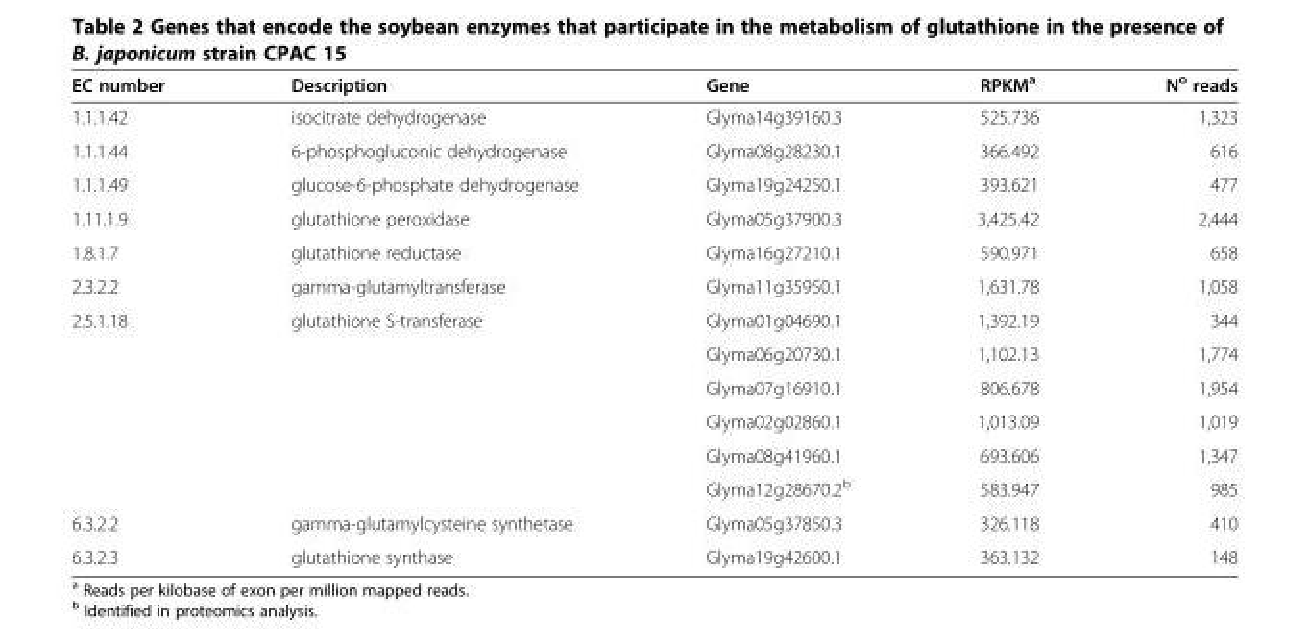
<table><thead><tr><td>EC number</td><td>Description</td><td>Gene</td><td>RPKM<sup>a</sup></td><td>N<sup>o</sup> reads</td></tr></thead><tbody><tr><td>1.1.1.42</td><td>isocitrate dehydrogenase</td><td>Glyma14g39160.3</td><td>525.736</td><td>1,323</td></tr><tr><td>1.1.1.44</td><td>6-phosphogluconic dehydrogenase</td><td>Glyma08g28230.1</td><td>366.492</td><td>616</td></tr><tr><td>1.1.1.49</td><td>glucose-6-phosphate dehydrogenase</td><td>Glyma19g24250.1</td><td>393.621</td><td>477</td></tr><tr><td>1.11.1.9</td><td>glutathione peroxidase</td><td>Glyma05g37900.3</td><td>3,425.42</td><td>2,444</td></tr><tr><td>1.8.1.7</td><td>glutathione reductase</td><td>Glyma16g27210.1</td><td>590.971</td><td>658</td></tr><tr><td>2.3.2.2</td><td>gamma-glutamyltransferase</td><td>Glyma11g35950.1</td><td>1,631.78</td><td>1,058</td></tr><tr><td rowspan="6">2.5.1.18</td><td>glutathione S-transferase</td><td>Glyma01g04690.1</td><td>1,392.19</td><td>344</td></tr><tr><td rowspan="5"></td><td>Glyma06g20730.1</td><td>1,102.13</td><td>1,774</td></tr><tr><td>Glyma07g16910.1</td><td>806.678</td><td>1,954</td></tr><tr><td>Glyma02g02860.1</td><td>1,013.09</td><td>1,019</td></tr><tr><td>Glyma08g41960.1</td><td>693.606</td><td>1,347</td></tr><tr><td>Glyma12g28670.2<sup>b</sup></td><td>583.947</td><td>985</td></tr><tr><td>6.3.2.2</td><td>gamma-glutamylcysteine synthetase</td><td>Glyma05g37850.3</td><td>326.118</td><td>410</td></tr><tr><td>6.3.2.3</td><td>glutathione synthase</td><td>Glyma19g42600.1</td><td>363.132</td><td>148</td></tr></tbody></table>